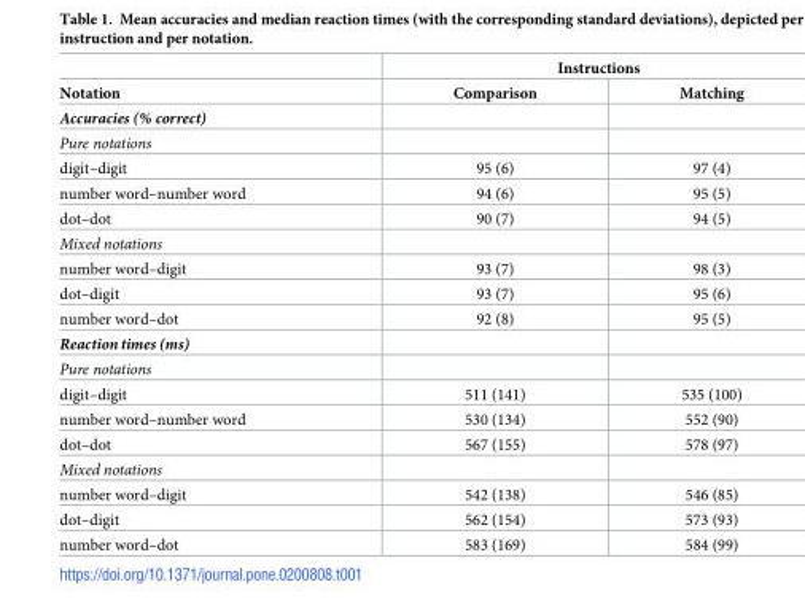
<table><thead><tr><td rowspan="2">Notation</td><td colspan="2">Instructions</td></tr><tr><td>Comparison</td><td>Matching</td></tr></thead><tbody><tr><td colspan="3">Accuracies (% correct)</td></tr><tr><td colspan="3">Pure notations</td></tr><tr><td>digit–digit</td><td>95 (6)</td><td>97 (4)</td></tr><tr><td>number word–number word</td><td>94 (6)</td><td>95 (5)</td></tr><tr><td>dot–dot</td><td>90 (7)</td><td>94 (5)</td></tr><tr><td colspan="3">Mixed notations</td></tr><tr><td>number word–digit</td><td>93 (7)</td><td>98 (3)</td></tr><tr><td>dot–digit</td><td>93 (7)</td><td>95 (6)</td></tr><tr><td>number word–dot</td><td>92 (8)</td><td>95 (5)</td></tr><tr><td colspan="3">Reaction times (ms)</td></tr><tr><td colspan="3">Pure notations</td></tr><tr><td>digit–digit</td><td>511 (141)</td><td>535 (100)</td></tr><tr><td>number word–number word</td><td>530 (134)</td><td>552 (90)</td></tr><tr><td>dot–dot</td><td>567 (155)</td><td>578 (97)</td></tr><tr><td colspan="3">Mixed notations</td></tr><tr><td>number word–digit</td><td>542 (138)</td><td>546 (85)</td></tr><tr><td>dot–digit</td><td>562 (154)</td><td>573 (93)</td></tr><tr><td>number word–dot</td><td>583 (169)</td><td>584 (99)</td></tr></tbody></table>